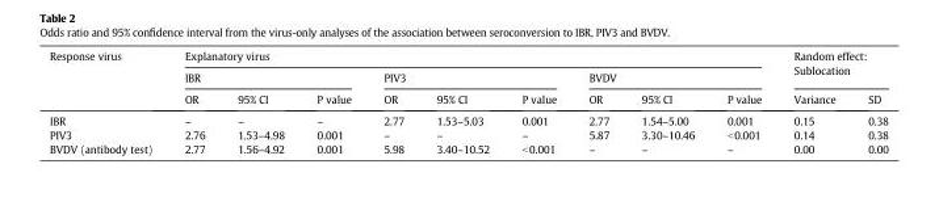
<table><thead><tr><td rowspan="3">Response virus</td><td colspan="9">Explanatory virus</td><td rowspan="2" colspan="2">Random effect: Sublocation</td></tr><tr><td colspan="3">IBR</td><td colspan="3">PIV3</td><td colspan="3">BVDV</td></tr><tr><td>OR</td><td>95% CI</td><td>P value</td><td>OR</td><td>95% CI</td><td>P value</td><td>OR</td><td>95% CI</td><td>P value</td><td>Variance</td><td>SD</td></tr></thead><tbody><tr><td>IBR</td><td>–</td><td>–</td><td>–</td><td>2.77</td><td>1.53–5.03</td><td>0.001</td><td>2.77</td><td>1.54–5.00</td><td>0.001</td><td>0.15</td><td>0.38</td></tr><tr><td>PIV3</td><td>2.76</td><td>1.53–4.98</td><td>0.001</td><td>–</td><td>–</td><td>–</td><td>5.87</td><td>3.30–10.46</td><td>&lt;0.001</td><td>0.14</td><td>0.38</td></tr><tr><td>BVDV (antibody test)</td><td>2.77</td><td>1.56–4.92</td><td>0.001</td><td>5.98</td><td>3.40–10.52</td><td>&lt;0.001</td><td>–</td><td>–</td><td>–</td><td>0.00</td><td>0.00</td></tr></tbody></table>